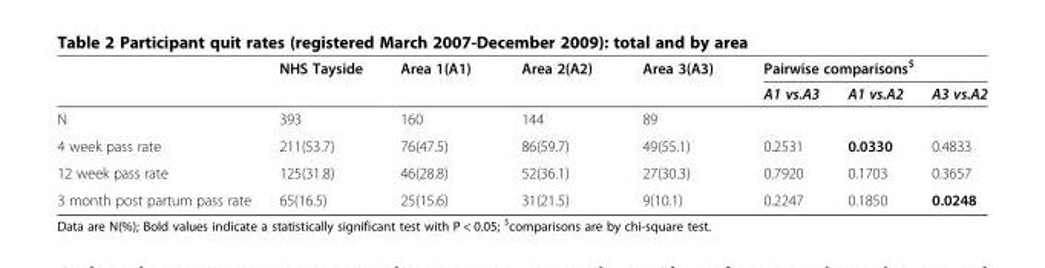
<table><thead><tr><td rowspan="2"></td><td rowspan="2">NHS Tayside</td><td rowspan="2">Area 1(A1)</td><td rowspan="2">Area 2(A2)</td><td rowspan="2">Area 3(A3)</td><td colspan="3">Pairwise comparisons<sup>$</sup></td></tr><tr><td>A1 vs.A3</td><td>A1 vs.A2</td><td>A3 vs.A2</td></tr></thead><tbody><tr><td>N</td><td>393</td><td>160</td><td>144</td><td>89</td><td></td><td></td><td></td></tr><tr><td>4 week pass rate</td><td>211(53.7)</td><td>76(47.5)</td><td>86(59.7)</td><td>49(55.1)</td><td>0.2531</td><td>0.0330</td><td>0.4833</td></tr><tr><td>12 week pass rate</td><td>125(31.8)</td><td>46(28.8)</td><td>52(36.1)</td><td>27(30.3)</td><td>0.7920</td><td>0.1703</td><td>0.3657</td></tr><tr><td>3 month post partum pass rate</td><td>65(16.5)</td><td>25(15.6)</td><td>31(21.5)</td><td>9(10.1)</td><td>0.2247</td><td>0.1850</td><td>0.0248</td></tr></tbody></table>